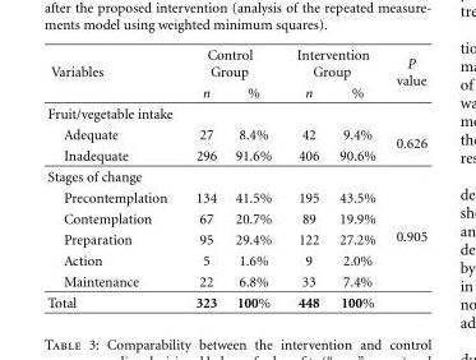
<table><thead><tr><td rowspan="2">Variables</td><td colspan="2">Control Group</td><td colspan="2">Intervention Group</td><td rowspan="2">P value</td></tr><tr><td>n</td><td>%</td><td>n</td><td>%</td></tr></thead><tbody><tr><td colspan="6">Fruit/vegetable intake</td></tr><tr><td>Adequate</td><td>27</td><td>8.4%</td><td>42</td><td>9.4%</td><td rowspan="2">0.626</td></tr><tr><td>Inadequate</td><td>296</td><td>91.6%</td><td>406</td><td>90.6%</td></tr><tr><td colspan="6">Stages of change</td></tr><tr><td>Precontemplation</td><td>134</td><td>41.5%</td><td>195</td><td>43.5%</td><td rowspan="5">0.905</td></tr><tr><td>Contemplation</td><td>67</td><td>20.7%</td><td>89</td><td>19.9%</td></tr><tr><td>Preparation</td><td>95</td><td>29.4%</td><td>122</td><td>27.2%</td></tr><tr><td>Action</td><td>5</td><td>1.6%</td><td>9</td><td>2.0%</td></tr><tr><td>Maintenance</td><td>22</td><td>6.8%</td><td>33</td><td>7.4%</td></tr><tr><td>Total</td><td>323</td><td>100%</td><td>448</td><td>100%</td><td></td></tr></tbody></table>